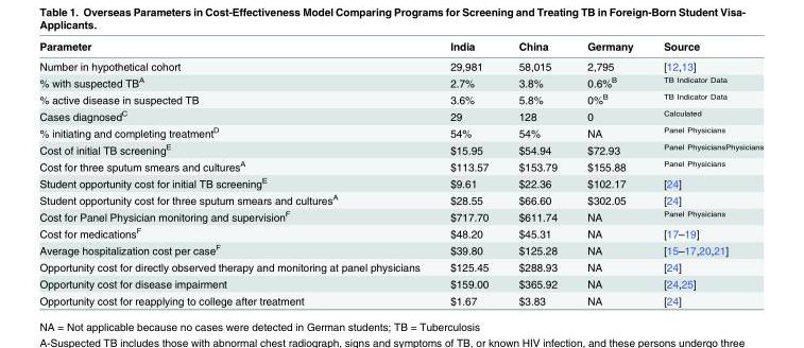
<table><thead><tr><td>Parameter</td><td>India</td><td>China</td><td>Germany</td><td>Source</td></tr></thead><tbody><tr><td>Number in hypothetical cohort</td><td>29,981</td><td>58,015</td><td>2,795</td><td>[12,13]</td></tr><tr><td>% with suspected TB<sup>A</sup></td><td>2.7%</td><td>3.8%</td><td>0.6%<sup>B</sup></td><td><sup>TB Indicator Data</sup></td></tr><tr><td>% active disease in suspected TB</td><td>3.6%</td><td>5.8%</td><td>0%<sup>B</sup></td><td><sup>TB Indicator Data</sup></td></tr><tr><td>Cases diagnosed<sup>C</sup></td><td>29</td><td>128</td><td>0</td><td><sup>Calculated</sup></td></tr><tr><td>% initiating and completing treatment<sup>D</sup></td><td>54%</td><td>54%</td><td>NA</td><td><sup>Panel Physicians</sup></td></tr><tr><td>Cost of initial TB screening<sup>E</sup></td><td>$15.95</td><td>$54.94</td><td>$72.93</td><td><sup>Panel PhysiciansPhysicians</sup></td></tr><tr><td>Cost for three sputum smears and cultures<sup>A</sup></td><td>$113.57</td><td>$153.79</td><td>$155.88</td><td><sup>Panel Physicians</sup></td></tr><tr><td>Student opportunity cost for initial TB screening<sup>E</sup></td><td>$9.61</td><td>$22.36</td><td>$102.17</td><td>[24]</td></tr><tr><td>Student opportunity cost for three sputum smears and cultures<sup>A</sup></td><td>$28.55</td><td>$66.60</td><td>$302.05</td><td>[24]</td></tr><tr><td>Cost for Panel Physician monitoring and supervision<sup>F</sup></td><td>$717.70</td><td>$611.74</td><td>NA</td><td><sup>Panel Physicians</sup></td></tr><tr><td>Cost for medications<sup>F</sup></td><td>$48.20</td><td>$45.31</td><td>NA</td><td>[17–19]</td></tr><tr><td>Average hospitalization cost per case<sup>F</sup></td><td>$39.80</td><td>$125.28</td><td>NA</td><td>[15–17,20,21]</td></tr><tr><td>Opportunity cost for directly observed therapy and monitoring at panel physicians</td><td>$125.45</td><td>$288.93</td><td>NA</td><td>[24]</td></tr><tr><td>Opportunity cost for disease impairment</td><td>$159.00</td><td>$365.92</td><td>NA</td><td>[24,25]</td></tr><tr><td>Opportunity cost for reapplying to college after treatment</td><td>$1.67</td><td>$3.83</td><td>NA</td><td>[24]</td></tr></tbody></table>